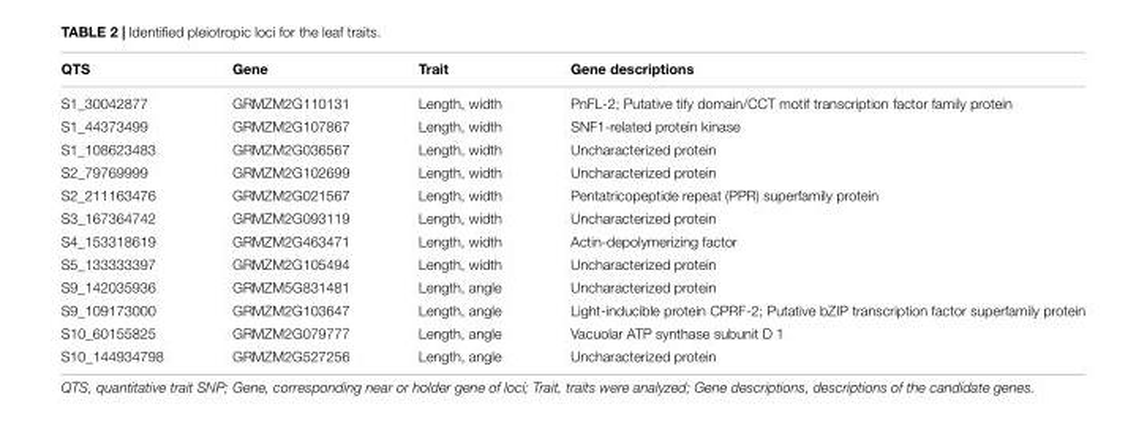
<table><thead><tr><td>QTS</td><td>Gene</td><td>Trait</td><td>Gene descriptions</td></tr></thead><tbody><tr><td>S1_30042877</td><td>GRMZM2G110131</td><td>Length, width</td><td>PnFL-2; Putative tify domain/CCT motif transcription factor family protein</td></tr><tr><td>S1_44373499</td><td>GRMZM2G107867</td><td>Length, width</td><td>SNF1-related protein kinase</td></tr><tr><td>S1_108623483</td><td>GRMZM2G036567</td><td>Length, width</td><td>Uncharacterized protein</td></tr><tr><td>S2_79769999</td><td>GRMZM2G102699</td><td>Length, width</td><td>Uncharacterized protein</td></tr><tr><td>S2_211163476</td><td>GRMZM2G021567</td><td>Length, width</td><td>Pentatricopeptide repeat (PPR) superfamily protein</td></tr><tr><td>S3_167364742</td><td>GRMZM2G093119</td><td>Length, width</td><td>Uncharacterized protein</td></tr><tr><td>S4_153318619</td><td>GRMZM2G463471</td><td>Length, width</td><td>Actin-depolymerizing factor</td></tr><tr><td>S5_133333397</td><td>GRMZM2G105494</td><td>Length, width</td><td>Uncharacterized protein</td></tr><tr><td>S9_142035936</td><td>GRMZM5G831481</td><td>Length, angle</td><td>Uncharacterized protein</td></tr><tr><td>S9_109173000</td><td>GRMZM2G103647</td><td>Length, angle</td><td>Light-inducible protein CPRF-2; Putative bZIP transcription factor superfamily protein</td></tr><tr><td>S10_60155825</td><td>GRMZM2G079777</td><td>Length, angle</td><td>Vacuolar ATP synthase subunit D 1</td></tr><tr><td>S10_144934798</td><td>GRMZM2G527256</td><td>Length, angle</td><td>Uncharacterized protein</td></tr></tbody></table>